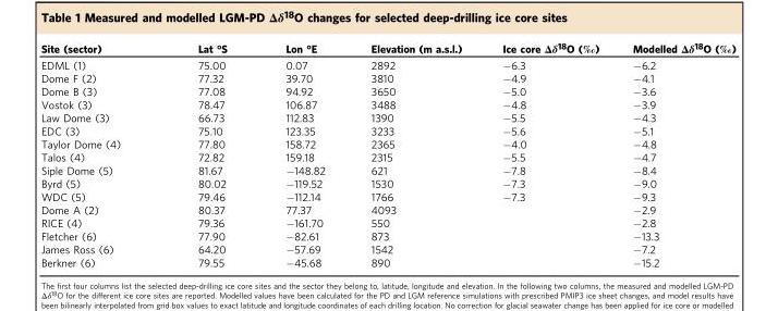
<table><thead><tr><td>Site (sector)</td><td>Lat °S</td><td>Lon °E</td><td>Elevation (m a.s.l.)</td><td>Ice core Δδ<sup>18</sup>O (‰)</td><td>Modelled Δδ<sup>18</sup>O (‰)</td></tr></thead><tbody><tr><td>EDML (1)</td><td>75.00</td><td>0.07</td><td>2892</td><td>−6.3</td><td>−6.2</td></tr><tr><td>Dome F (2)</td><td>77.32</td><td>39.70</td><td>3810</td><td>−4.9</td><td>−4.1</td></tr><tr><td>Dome B (3)</td><td>77.08</td><td>94.92</td><td>3650</td><td>−5.0</td><td>−3.6</td></tr><tr><td>Vostok (3)</td><td>78.47</td><td>106.87</td><td>3488</td><td>−4.8</td><td>−3.9</td></tr><tr><td>Law Dome (3)</td><td>66.73</td><td>112.83</td><td>1390</td><td>−5.5</td><td>−4.3</td></tr><tr><td>EDC (3)</td><td>75.10</td><td>123.35</td><td>3233</td><td>−5.6</td><td>−5.1</td></tr><tr><td>Taylor Dome (4)</td><td>77.80</td><td>158.72</td><td>2365</td><td>−4.0</td><td>−4.8</td></tr><tr><td>Talos (4)</td><td>72.82</td><td>159.18</td><td>2315</td><td>−5.5</td><td>−4.7</td></tr><tr><td>Siple Dome (5)</td><td>81.67</td><td>−148.82</td><td>621</td><td>−7.8</td><td>−8.4</td></tr><tr><td>Byrd (5)</td><td>80.02</td><td>−119.52</td><td>1530</td><td>−7.3</td><td>−9.0</td></tr><tr><td>WDC (5)</td><td>79.46</td><td>−112.14</td><td>1766</td><td>−7.3</td><td>−9.3</td></tr><tr><td>Dome A (2)</td><td>80.37</td><td>77.37</td><td>4093</td><td></td><td>−2.9</td></tr><tr><td>RICE (4)</td><td>79.36</td><td>−161.70</td><td>550</td><td></td><td>−2.8</td></tr><tr><td>Fletcher (6)</td><td>77.90</td><td>−82.61</td><td>873</td><td></td><td>−13.3</td></tr><tr><td>James Ross (6)</td><td>64.20</td><td>−57.69</td><td>1542</td><td></td><td>−7.2</td></tr><tr><td>Berkner (6)</td><td>79.55</td><td>−45.68</td><td>890</td><td></td><td>−15.2</td></tr></tbody></table>